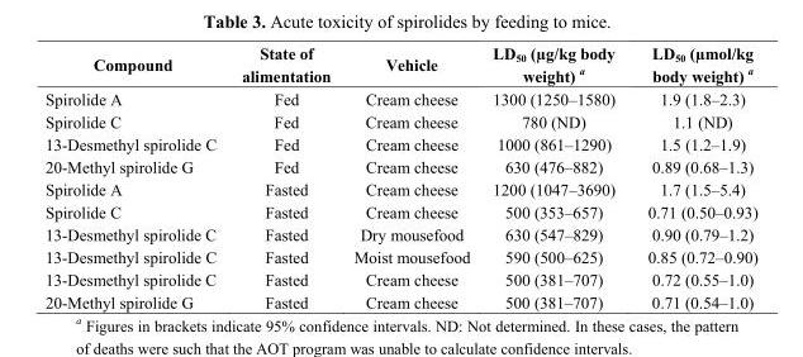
<table><thead><tr><td>Compound</td><td>State of alimentation</td><td>Vehicle</td><td>LD<sub>50</sub> (µg/kg body weight) <sup>a</sup></td><td>LD<sub>50</sub> (µmol/kg body weight) <sup>a</sup></td></tr></thead><tbody><tr><td>Spirolide A</td><td>Fed</td><td>Cream cheese</td><td>1300 (1250–1580)</td><td>1.9 (1.8–2.3)</td></tr><tr><td>Spirolide C</td><td>Fed</td><td>Cream cheese</td><td>780 (ND)</td><td>1.1 (ND)</td></tr><tr><td>13-Desmethyl spirolide C</td><td>Fed</td><td>Cream cheese</td><td>1000 (861–1290)</td><td>1.5 (1.2–1.9)</td></tr><tr><td>20-Methyl spirolide G</td><td>Fed</td><td>Cream cheese</td><td>630 (476–882)</td><td>0.89 (0.68–1.3)</td></tr><tr><td>Spirolide A</td><td>Fasted</td><td>Cream cheese</td><td>1200 (1047–3690)</td><td>1.7 (1.5–5.4)</td></tr><tr><td>Spirolide C</td><td>Fasted</td><td>Cream cheese</td><td>500 (353–657)</td><td>0.71 (0.50–0.93)</td></tr><tr><td>13-Desmethyl spirolide C</td><td>Fasted</td><td>Dry mousefood</td><td>630 (547–829)</td><td>0.90 (0.79–1.2)</td></tr><tr><td>13-Desmethyl spirolide C</td><td>Fasted</td><td>Moist mousefood</td><td>590 (500–625)</td><td>0.85 (0.72–0.90)</td></tr><tr><td>13-Desmethyl spirolide C</td><td>Fasted</td><td>Cream cheese</td><td>500 (381–707)</td><td>0.72 (0.55–1.0)</td></tr><tr><td>20-Methyl spirolide G</td><td>Fasted</td><td>Cream cheese</td><td>500 (381–707)</td><td>0.71 (0.54–1.0)</td></tr></tbody></table>